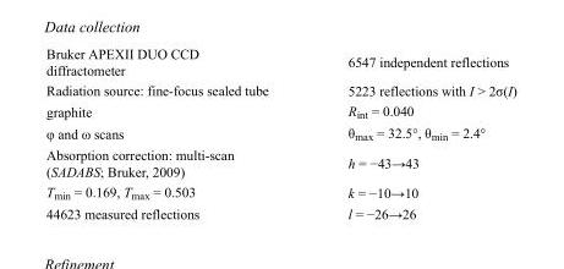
<table><tbody><tr><td>Bruker APEXII DUO CCD diffractometer</td><td>6547 independent reflections</td></tr><tr><td>Radiation source: fine-focus sealed tube</td><td>5223 reflections with I &gt; 2σ(I)</td></tr><tr><td>graphite</td><td>R<sub>int</sub> = 0.040</td></tr><tr><td>φ and ω scans</td><td>θ<sub>max</sub> = 32.5°, θ<sub>min</sub> = 2.4°</td></tr><tr><td>Absorption correction: multi-scan (SADABS; Bruker, 2009)</td><td>h = −43→43</td></tr><tr><td>T<sub>min</sub> = 0.169, T<sub>max</sub> = 0.503</td><td>k = −10→10</td></tr><tr><td>44623 measured reflections</td><td>l = −26→26</td></tr></tbody></table>